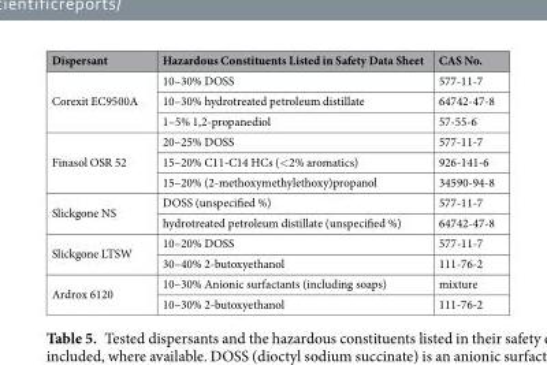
<table><thead><tr><td>Dispersant</td><td>Hazardous Constituents Listed in Safety Data Sheet</td><td>CAS No.</td></tr></thead><tbody><tr><td rowspan="3">Corexit EC9500A</td><td>10–30% DOSS</td><td>577-11-7</td></tr><tr><td>10–30% hydrotreated petroleum distillate</td><td>64742-47-8</td></tr><tr><td>1–5% 1,2-propanediol</td><td>57-55-6</td></tr><tr><td rowspan="3">Finasol OSR 52</td><td>20–25% DOSS</td><td>577-11-7</td></tr><tr><td>15–20% C11-C14 HCs (&lt;2% aromatics)</td><td>926-141-6</td></tr><tr><td>15–20% (2-methoxymethylethoxy)propanol</td><td>34590-94-8</td></tr><tr><td rowspan="2">Slickgone NS</td><td>DOSS (unspecified %)</td><td>577-11-7</td></tr><tr><td>hydrotreated petroleum distillate (unspecified %)</td><td>64742-47-8</td></tr><tr><td rowspan="2">Slickgone LTSW</td><td>10–20% DOSS</td><td>577-11-7</td></tr><tr><td>30–40% 2-butoxyethanol</td><td>111-76-2</td></tr><tr><td rowspan="2">Ardrox 6120</td><td>10–30% Anionic surfactants (including soaps)</td><td>mixture</td></tr><tr><td>10–30% 2-butoxyethanol</td><td>111-76-2</td></tr></tbody></table>